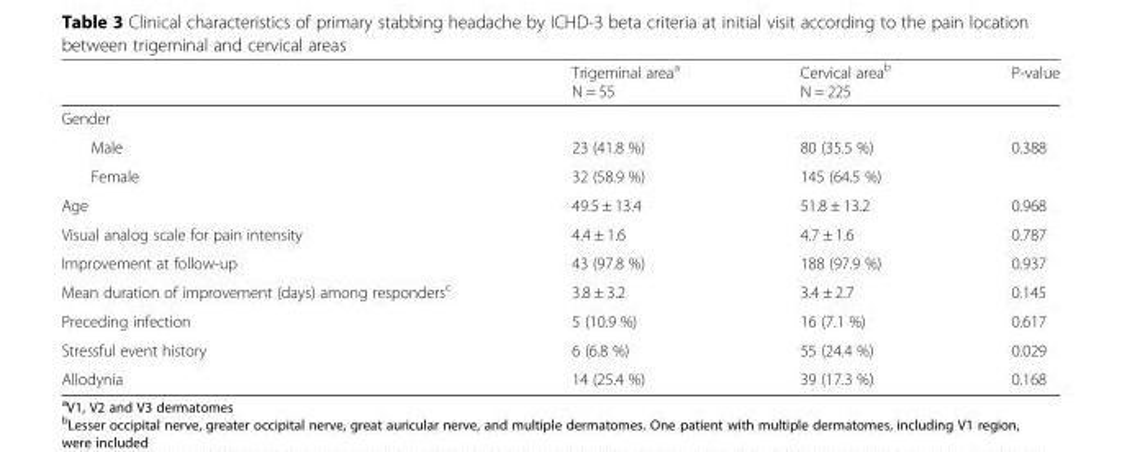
<table><thead><tr><td></td><td>Trigeminal area<sup>a</sup> N = 55</td><td>Cervical area<sup>b</sup> N = 225</td><td>P-value</td></tr></thead><tbody><tr><td colspan="4">Gender</td></tr><tr><td>Male</td><td>23 (41.8 %)</td><td>80 (35.5 %)</td><td rowspan="2">0.388</td></tr><tr><td>Female</td><td>32 (58.9 %)</td><td>145 (64.5 %)</td></tr><tr><td>Age</td><td>49.5 ± 13.4</td><td>51.8 ± 13.2</td><td>0.968</td></tr><tr><td>Visual analog scale for pain intensity</td><td>4.4 ± 1.6</td><td>4.7 ± 1.6</td><td>0.787</td></tr><tr><td>Improvement at follow-up</td><td>43 (97.8 %)</td><td>188 (97.9 %)</td><td>0.937</td></tr><tr><td>Mean duration of improvement (days) among responders<sup>c</sup></td><td>3.8 ± 3.2</td><td>3.4 ± 2.7</td><td>0.145</td></tr><tr><td>Preceding infection</td><td>5 (10.9 %)</td><td>16 (7.1 %)</td><td>0.617</td></tr><tr><td>Stressful event history</td><td>6 (6.8 %)</td><td>55 (24.4 %)</td><td>0.029</td></tr><tr><td>Allodynia</td><td>14 (25.4 %)</td><td>39 (17.3 %)</td><td>0.168</td></tr></tbody></table>